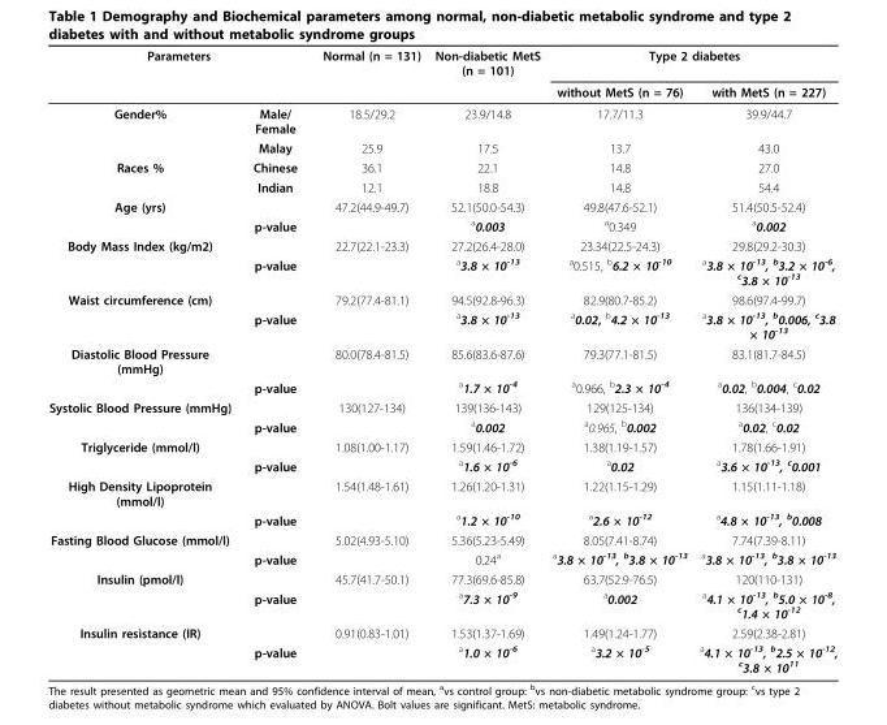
<table><thead><tr><td colspan="2">Parameters</td><td rowspan="2">Normal (n = 131)</td><td rowspan="2">Non-diabetic MetS (n = 101)</td><td colspan="2">Type 2 diabetes</td></tr><tr><td></td><td></td><td>without MetS (n = 76)</td><td>with MetS (n = 227)</td></tr></thead><tbody><tr><td rowspan="2">Gender%</td><td>Male/ Female</td><td>18.5/29.2</td><td>23.9/14.8</td><td>17.7/11.3</td><td>39.9/44.7</td></tr><tr><td>Malay</td><td>25.9</td><td>17.5</td><td>13.7</td><td>43.0</td></tr><tr><td rowspan="2">Races %</td><td>Chinese</td><td>36.1</td><td>22.1</td><td>14.8</td><td>27.0</td></tr><tr><td>Indian</td><td>12.1</td><td>18.8</td><td>14.8</td><td>54.4</td></tr><tr><td rowspan="2">Age (yrs)</td><td></td><td>47.2(44.9-49.7)</td><td>52.1(50.0-54.3)</td><td>49.8(47.6-52.1)</td><td>51.4(50.5-52.4)</td></tr><tr><td>p-value</td><td></td><td><sup>a</sup>0.003</td><td><sup>a</sup>0.349</td><td><sup>a</sup>0.002</td></tr><tr><td rowspan="2">Body Mass Index (kg/m2)</td><td></td><td>22.7(22.1-23.3)</td><td>27.2(26.4-28.0)</td><td>23.34(22.5-24.3)</td><td>29.8(29.2-30.3)</td></tr><tr><td>p-value</td><td></td><td><sup>a</sup>3.8 × 10<sup>-13</sup></td><td><sup>a</sup>0.515, <sup>b</sup>6.2 × 10<sup>-10</sup></td><td><sup>a</sup>3.8 × 10<sup>-13</sup>, <sup>b</sup>3.2 × 10<sup>-6</sup>, <sup>c</sup>3.8 × 10<sup>-13</sup></td></tr><tr><td rowspan="2">Waist circumference (cm)</td><td></td><td>79.2(77.4-81.1)</td><td>94.5(92.8-96.3)</td><td>82.9(80.7-85.2)</td><td>98.6(97.4-99.7)</td></tr><tr><td>p-value</td><td></td><td><sup>a</sup>3.8 × 10<sup>-13</sup></td><td><sup>a</sup>0.02, <sup>b</sup>4.2 × 10<sup>-13</sup></td><td><sup>a</sup>3.8 × 10<sup>-13</sup>, <sup>b</sup>0.006, <sup>c</sup>3.8 × 10<sup>-13</sup></td></tr><tr><td rowspan="2">Diastolic Blood Pressure (mmHg)</td><td></td><td>80.0(78.4-81.5)</td><td>85.6(83.6-87.6)</td><td>79.3(77.1-81.5)</td><td>83.1(81.7-84.5)</td></tr><tr><td>p-value</td><td></td><td><sup>a</sup>1.7 × 10<sup>-4</sup></td><td><sup>a</sup>0.966, <sup>b</sup>2.3 × 10<sup>-4</sup></td><td><sup>a</sup>0.02, <sup>b</sup>0.004, <sup>c</sup>0.02</td></tr><tr><td rowspan="2">Systolic Blood Pressure (mmHg)</td><td></td><td>130(127-134)</td><td>139(136-143)</td><td>129(125-134)</td><td>136(134-139)</td></tr><tr><td>p-value</td><td></td><td><sup>a</sup>0.002</td><td><sup>a</sup>0.965, <sup>b</sup>0.002</td><td><sup>a</sup>0.02, <sup>c</sup>0.02</td></tr><tr><td rowspan="2">Triglyceride (mmol/l)</td><td></td><td>1.08(1.00-1.17)</td><td>1.59(1.46-1.72)</td><td>1.38(1.19-1.57)</td><td>1.78(1.66-1.91)</td></tr><tr><td>p-value</td><td></td><td><sup>a</sup>1.6 × 10<sup>-6</sup></td><td><sup>a</sup>0.02</td><td><sup>a</sup>3.6 × 10<sup>-13</sup>, <sup>c</sup>0.001</td></tr><tr><td rowspan="2">High Density Lipoprotein (mmol/l)</td><td></td><td>1.54(1.48-1.61)</td><td>1.26(1.20-1.31)</td><td>1.22(1.15-1.29)</td><td>1.15(1.11-1.18)</td></tr><tr><td>p-value</td><td></td><td><sup>a</sup>1.2 × 10<sup>-10</sup></td><td><sup>a</sup>2.6 × 10<sup>-12</sup></td><td><sup>a</sup>4.8 × 10<sup>-13</sup>, <sup>b</sup>0.008</td></tr><tr><td rowspan="2">Fasting Blood Glucose (mmol/l)</td><td></td><td>5.02(4.93-5.10)</td><td>5.36(5.23-5.49)</td><td>8.05(7.41-8.74)</td><td>7.74(7.39-8.11)</td></tr><tr><td>p-value</td><td></td><td>0.24<sup>a</sup></td><td><sup>a</sup>3.8 × 10<sup>-13</sup>, <sup>b</sup>3.8 × 10<sup>-13</sup></td><td><sup>a</sup>3.8 × 10<sup>-13</sup>, <sup>b</sup>3.8 × 10<sup>-13</sup></td></tr><tr><td rowspan="2">Insulin (pmol/l)</td><td></td><td>45.7(41.7-50.1)</td><td>77.3(69.6-85.8)</td><td>63.7(52.9-76.5)</td><td>120(110-131)</td></tr><tr><td>p-value</td><td></td><td><sup>a</sup>7.3 × 10<sup>-9</sup></td><td><sup>a</sup>0.002</td><td><sup>a</sup>4.1 × 10<sup>-13</sup>, <sup>b</sup>5.0 × 10<sup>-8</sup>, <sup>c</sup>1.4 × 10<sup>-12</sup></td></tr><tr><td rowspan="2">Insulin resistance (IR)</td><td></td><td>0.91(0.83-1.01)</td><td>1.53(1.37-1.69)</td><td>1.49(1.24-1.77)</td><td>2.59(2.38-2.81)</td></tr><tr><td>p-value</td><td></td><td><sup>a</sup>1.0 × 10<sup>-6</sup></td><td><sup>a</sup>3.2 × 10<sup>-5</sup></td><td><sup>a</sup>4.1 × 10<sup>-13</sup>, <sup>b</sup>2.5 × 10<sup>-12</sup>, <sup>c</sup>3.8 × 10<sup>11</sup></td></tr></tbody></table>